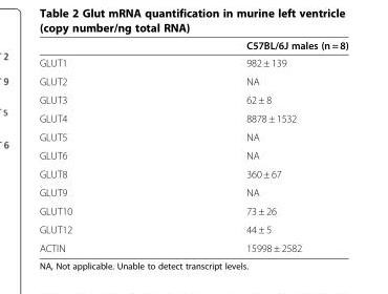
<table><thead><tr><td></td><td>C57BL/6J males (n = 8)</td></tr></thead><tbody><tr><td>GLUT1</td><td>982 ± 139</td></tr><tr><td>GLUT2</td><td>NA</td></tr><tr><td>GLUT3</td><td>62 ± 8</td></tr><tr><td>GLUT4</td><td>8878 ± 1532</td></tr><tr><td>GLUT5</td><td>NA</td></tr><tr><td>GLUT6</td><td>NA</td></tr><tr><td>GLUT8</td><td>360 ± 67</td></tr><tr><td>GLUT9</td><td>NA</td></tr><tr><td>GLUT10</td><td>73 ± 26</td></tr><tr><td>GLUT12</td><td>44 ± 5</td></tr><tr><td>ACTIN</td><td>15998 ± 2582</td></tr></tbody></table>